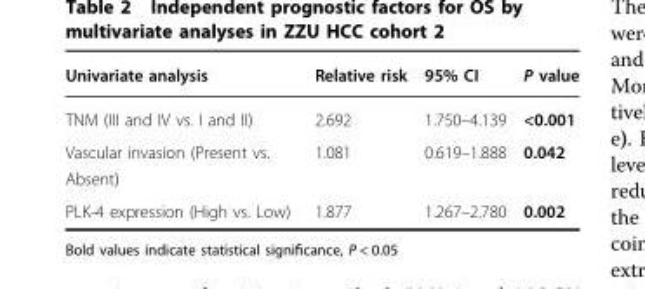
<table><thead><tr><td>Univariate analysis</td><td>Relative risk</td><td>95% CI</td><td>P value</td></tr></thead><tbody><tr><td>TNM (III and IV vs. I and II)</td><td>2.692</td><td>1.750–4.139</td><td>&lt;0.001</td></tr><tr><td>Vascular invasion (Present vs. Absent)</td><td>1.081</td><td>0.619–1.888</td><td>0.042</td></tr><tr><td>PLK-4 expression (High vs. Low)</td><td>1.877</td><td>1.267–2.780</td><td>0.002</td></tr></tbody></table>